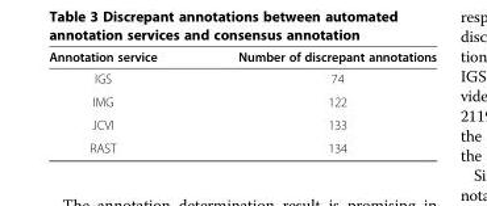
<table><thead><tr><td>Annotation service</td><td>Number of discrepant annotations</td></tr></thead><tbody><tr><td>IGS</td><td>74</td></tr><tr><td>IMG</td><td>122</td></tr><tr><td>JCVI</td><td>133</td></tr><tr><td>RAST</td><td>134</td></tr></tbody></table>